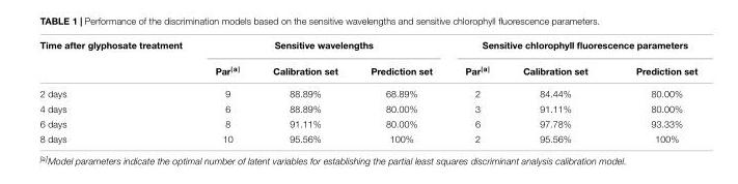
<table><thead><tr><td rowspan="2">Time after glyphosate treatment</td><td colspan="3">Sensitive wavelengths</td><td colspan="3">Sensitive chlorophyll fluorescence parameters</td></tr><tr><td>Par<sup>[a]</sup></td><td>Calibration set</td><td>Prediction set</td><td>Par<sup>[a]</sup></td><td>Calibration set</td><td>Prediction set</td></tr></thead><tbody><tr><td>2 days</td><td>9</td><td>88.89%</td><td>68.89%</td><td>2</td><td>84.44%</td><td>80.00%</td></tr><tr><td>4 days</td><td>6</td><td>88.89%</td><td>80.00%</td><td>3</td><td>91.11%</td><td>80.00%</td></tr><tr><td>6 days</td><td>8</td><td>91.11%</td><td>80.00%</td><td>6</td><td>97.78%</td><td>93.33%</td></tr><tr><td>8 days</td><td>10</td><td>95.56%</td><td>100%</td><td>2</td><td>95.56%</td><td>100%</td></tr></tbody></table>